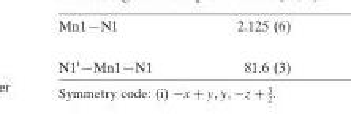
<table><tbody><tr><td>N1i—Mn1—N1</td><td>81.6 (3)</td></tr></tbody></table>